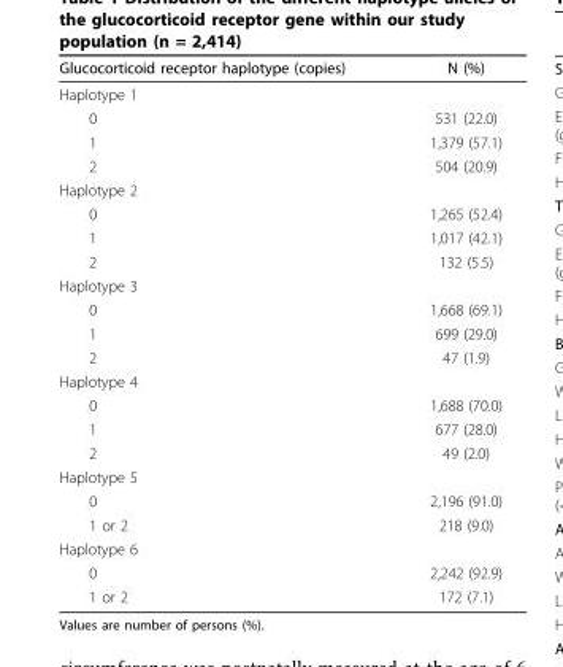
<table><thead><tr><td>Glucocorticoid receptor haplotype (copies)</td><td>N (%)</td></tr></thead><tbody><tr><td colspan="2">Haplotype 1</td></tr><tr><td>0</td><td>531 (22.0)</td></tr><tr><td>1</td><td>1,379 (57.1)</td></tr><tr><td>2</td><td>504 (20.9)</td></tr><tr><td colspan="2">Haplotype 2</td></tr><tr><td>0</td><td>1,265 (52.4)</td></tr><tr><td>1</td><td>1,017 (42.1)</td></tr><tr><td>2</td><td>132 (5.5)</td></tr><tr><td colspan="2">Haplotype 3</td></tr><tr><td>0</td><td>1,668 (69.1)</td></tr><tr><td>1</td><td>699 (29.0)</td></tr><tr><td>2</td><td>47 (1.9)</td></tr><tr><td colspan="2">Haplotype 4</td></tr><tr><td>0</td><td>1,688 (70.0)</td></tr><tr><td>1</td><td>677 (28.0)</td></tr><tr><td>2</td><td>49 (2.0)</td></tr><tr><td colspan="2">Haplotype 5</td></tr><tr><td>0</td><td>2,196 (91.0)</td></tr><tr><td>1 or 2</td><td>218 (9.0)</td></tr><tr><td colspan="2">Haplotype 6</td></tr><tr><td>0</td><td>2,242 (92.9)</td></tr><tr><td>1 or 2</td><td>172 (7.1)</td></tr></tbody></table>